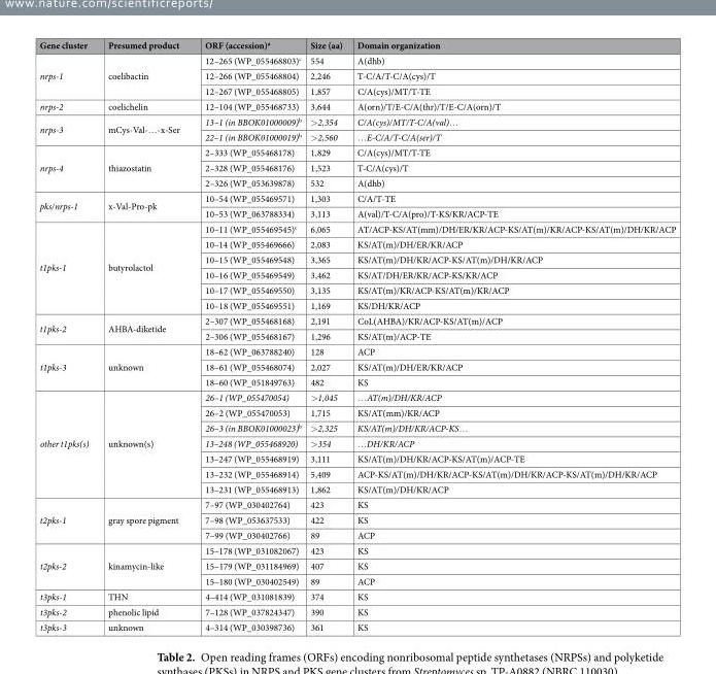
<table><thead><tr><td>Gene cluster</td><td>Presumed product</td><td>ORF (accession)<sup>a</sup></td><td>Size (aa)</td><td>Domain organization</td></tr></thead><tbody><tr><td rowspan="3">nrps-1</td><td rowspan="3">coelibactin</td><td>12–265 (WP_055468803)<sup>c</sup></td><td>554</td><td>A(dhb)</td></tr><tr><td>12–266 (WP_055468804)</td><td>2,246</td><td>T-C/A/T-C/A(cys)/T</td></tr><tr><td>12–267 (WP_055468805)</td><td>1,857</td><td>C/A(cys)/MT/T-TE</td></tr><tr><td>nrps-2</td><td>coelichelin</td><td>12–104 (WP_055468733)</td><td>3,644</td><td>A(orn)/T/E-C/A(thr)/T/E-C/A(orn)/T</td></tr><tr><td rowspan="2">nrps-3</td><td rowspan="2">mCys-Val-…-x-Ser</td><td>13–1 (in BBOK01000009)<sup>b</sup></td><td>&gt;2,354</td><td>C/A(cys)/MT/T-C/A(val)…</td></tr><tr><td>22–1 (in BBOK01000019)<sup>b</sup></td><td>&gt;2,560</td><td>…E-C/A/T-C/A(ser)/T</td></tr><tr><td rowspan="3">nrps-4</td><td rowspan="3">thiazostatin</td><td>2–333 (WP_055468178)</td><td>1,829</td><td>C/A(cys)/MT/T-TE</td></tr><tr><td>2–328 (WP_055468176)</td><td>1,523</td><td>T-C/A(cys)/T</td></tr><tr><td>2–326 (WP_053639878)</td><td>532</td><td>A(dhb)</td></tr><tr><td rowspan="2">pks/nrps-1</td><td rowspan="2">x-Val-Pro-pk</td><td>10–54 (WP_055469571)</td><td>1,303</td><td>C/A/T-TE</td></tr><tr><td>10–53 (WP_063788334)</td><td>3,113</td><td>A(val)/T-C/A(pro)/T-KS/KR/ACP-TE</td></tr><tr><td rowspan="6">t1pks-1</td><td rowspan="6">butyrolactol</td><td>10–11 (WP_055469545)<sup>c</sup></td><td>6,065</td><td>AT/ACP-KS/AT(mm)/DH/ER/KR/ACP-KS/AT(m)/KR/ACP-KS/AT(m)/DH/KR/ACP</td></tr><tr><td>10–14 (WP_055469666)</td><td>2,083</td><td>KS/AT(m)/DH/ER/KR/ACP</td></tr><tr><td>10–15 (WP_055469548)</td><td>3,365</td><td>KS/AT(m)/DH/KR/ACP-KS/AT(m)/DH/KR/ACP</td></tr><tr><td>10–16 (WP_055469549)</td><td>3,462</td><td>KS/AT/DH/ER/KR/ACP-KS/KR/ACP</td></tr><tr><td>10–17 (WP_055469550)</td><td>3,135</td><td>KS/AT(m)/KR/ACP-KS/AT(m)/KR/ACP</td></tr><tr><td>10–18 (WP_055469551)</td><td>1,169</td><td>KS/DH/KR/ACP</td></tr><tr><td rowspan="2">t1pks-2</td><td rowspan="2">AHBA-diketide</td><td>2–307 (WP_055468168)</td><td>2,191</td><td>CoL(AHBA)/KR/ACP-KS/AT(m)/ACP</td></tr><tr><td>2–306 (WP_055468167)</td><td>1,296</td><td>KS/AT(m)/ACP-TE</td></tr><tr><td rowspan="3">t1pks-3</td><td rowspan="3">unknown</td><td>18–62 (WP_063788240)</td><td>128</td><td>ACP</td></tr><tr><td>18–61 (WP_055468074)</td><td>2,027</td><td>KS/AT(m)/DH/ER/KR/ACP</td></tr><tr><td>18–60 (WP_051849763)</td><td>482</td><td>KS</td></tr><tr><td rowspan="7">other t1pks(s)</td><td rowspan="7">unknown(s)</td><td>26–1 (WP_055470054)</td><td>&gt;1,045</td><td>…AT(m)/DH/KR/ACP</td></tr><tr><td>26–2 (WP_055470053)</td><td>1,715</td><td>KS/AT(mm)/KR/ACP</td></tr><tr><td>26–3 (in BBOK01000023)<sup>b</sup></td><td>&gt;2,325</td><td>KS/AT(m)/DH/KR/ACP-KS…</td></tr><tr><td>13–248 (WP_055468920)</td><td>&gt;354</td><td>…DH/KR/ACP</td></tr><tr><td>13–247 (WP_055468919)</td><td>3,111</td><td>KS/AT(m)/DH/KR/ACP-KS/AT(m)/ACP-TE</td></tr><tr><td>13–232 (WP_055468914)</td><td>5,409</td><td>ACP-KS/AT(m)/DH/KR/ACP-KS/AT(m)/DH/KR/ACP-KS/AT(m)/DH/KR/ACP</td></tr><tr><td>13–231 (WP_055468913)</td><td>1,862</td><td>KS/AT(m)/DH/KR/ACP</td></tr><tr><td rowspan="3">t2pks-1</td><td rowspan="3">gray spore pigment</td><td>7–97 (WP_030402764)</td><td>423</td><td>KS</td></tr><tr><td>7–98 (WP_053637533)</td><td>422</td><td>KS</td></tr><tr><td>7–99 (WP_030402766)</td><td>89</td><td>ACP</td></tr><tr><td rowspan="3">t2pks-2</td><td rowspan="3">kinamycin-like</td><td>15–178 (WP_031082067)</td><td>423</td><td>KS</td></tr><tr><td>15–179 (WP_031184969)</td><td>407</td><td>KS</td></tr><tr><td>15–180 (WP_030402549)</td><td>89</td><td>ACP</td></tr><tr><td>t3pks-1</td><td>THN</td><td>4–414 (WP_031081839)</td><td>374</td><td>KS</td></tr><tr><td>t3pks-2</td><td>phenolic lipid</td><td>7–128 (WP_037824347)</td><td>390</td><td>KS</td></tr><tr><td>t3pks-3</td><td>unknown</td><td>4–314 (WP_030398736)</td><td>361</td><td>KS</td></tr></tbody></table>